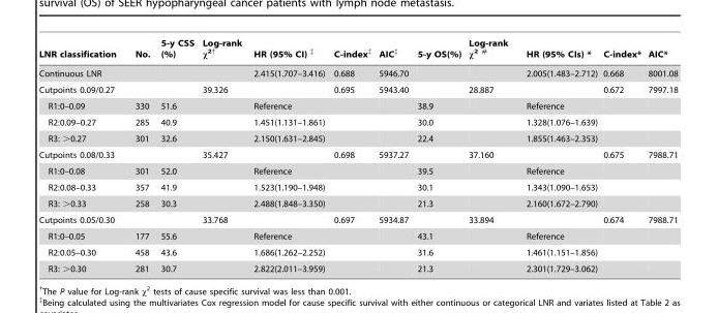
<table><thead><tr><td>LNR classification</td><td>No.</td><td>5-y CSS (%)</td><td>Log-rank χ<sup>2</sup>†</td><td>HR (95% CI) ‡</td><td>C-index‡</td><td>AIC‡</td><td>5-y OS(%)</td><td>Log-rank χ<sup>2</sup> #</td><td>HR (95% CIs) *</td><td>C-index*</td><td>AIC*</td></tr></thead><tbody><tr><td>Continuous LNR</td><td></td><td></td><td></td><td>2.415(1.707–3.416)</td><td>0.688</td><td>5946.70</td><td></td><td></td><td>2.005(1.483–2.712)</td><td>0.668</td><td>8001.08</td></tr><tr><td>Cutpoints 0.09/0.27</td><td></td><td></td><td>39.326</td><td></td><td>0.695</td><td>5943.40</td><td></td><td>28.887</td><td></td><td>0.672</td><td>7997.18</td></tr><tr><td>R1:0–0.09</td><td>330</td><td>51.6</td><td></td><td>Reference</td><td></td><td></td><td>38.9</td><td></td><td>Reference</td><td></td><td></td></tr><tr><td>R2:0.09–0.27</td><td>285</td><td>40.9</td><td></td><td>1.451(1.131–1.861)</td><td></td><td></td><td>30.0</td><td></td><td>1.328(1.076–1.639)</td><td></td><td></td></tr><tr><td>R3: &gt;0.27</td><td>301</td><td>32.6</td><td></td><td>2.150(1.631–2.845)</td><td></td><td></td><td>22.4</td><td></td><td>1.855(1.463–2.353)</td><td></td><td></td></tr><tr><td>Cutpoints 0.08/0.33</td><td></td><td></td><td>35.427</td><td></td><td>0.698</td><td>5937.27</td><td></td><td>37.160</td><td></td><td>0.675</td><td>7988.71</td></tr><tr><td>R1:0–0.08</td><td>301</td><td>52.0</td><td></td><td>Reference</td><td></td><td></td><td>39.5</td><td></td><td>Reference</td><td></td><td></td></tr><tr><td>R2:0.08–0.33</td><td>357</td><td>41.9</td><td></td><td>1.523(1.190–1.948)</td><td></td><td></td><td>30.1</td><td></td><td>1.343(1.090–1.653)</td><td></td><td></td></tr><tr><td>R3: &gt;0.33</td><td>258</td><td>30.3</td><td></td><td>2.488(1.848–3.350)</td><td></td><td></td><td>21.3</td><td></td><td>2.160(1.672–2.790)</td><td></td><td></td></tr><tr><td>Cutpoints 0.05/0.30</td><td></td><td></td><td>33.768</td><td></td><td>0.697</td><td>5934.87</td><td></td><td>33.894</td><td></td><td>0.674</td><td>7988.71</td></tr><tr><td>R1:0–0.05</td><td>177</td><td>55.6</td><td></td><td>Reference</td><td></td><td></td><td>43.1</td><td></td><td>Reference</td><td></td><td></td></tr><tr><td>R2:0.05–0.30</td><td>458</td><td>43.6</td><td></td><td>1.686(1.262–2.252)</td><td></td><td></td><td>31.6</td><td></td><td>1.461(1.151–1.856)</td><td></td><td></td></tr><tr><td>R3: &gt;0.30</td><td>281</td><td>30.7</td><td></td><td>2.822(2.011–3.959)</td><td></td><td></td><td>21.3</td><td></td><td>2.301(1.729–3.062)</td><td></td><td></td></tr></tbody></table>